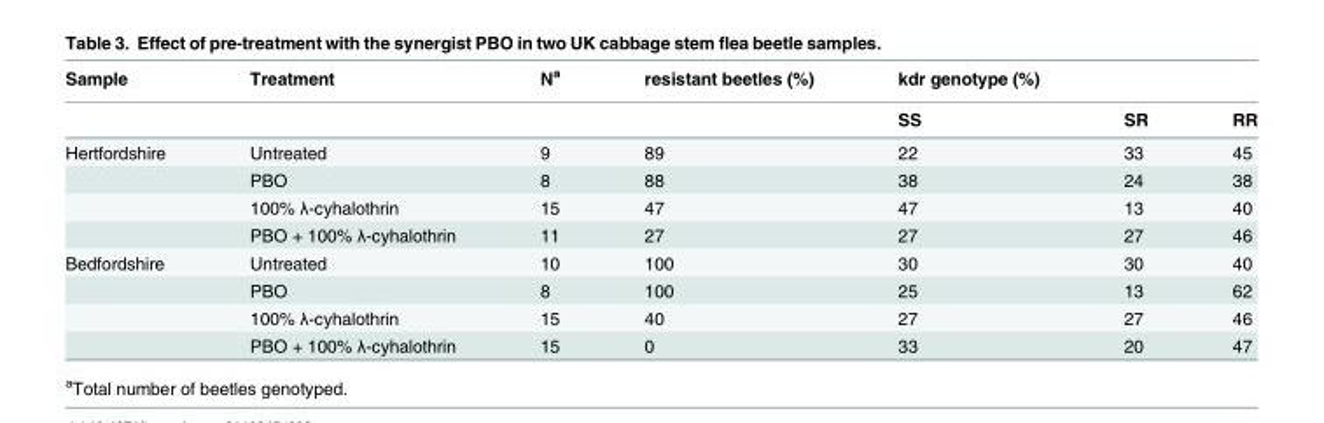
<table><thead><tr><td rowspan="2">Sample</td><td rowspan="2">Treatment</td><td rowspan="2">N<sup>a</sup></td><td rowspan="2">resistant beetles (%)</td><td rowspan="2">kdr genotype (%) SS</td><td rowspan="2">SR</td><td rowspan="2">RR</td></tr><tr></tr></thead><tbody><tr><td rowspan="4">Hertfordshire</td><td>Untreated</td><td>9</td><td>89</td><td>22</td><td>33</td><td>45</td></tr><tr><td>PBO</td><td>8</td><td>88</td><td>38</td><td>24</td><td>38</td></tr><tr><td>100% λ-cyhalothrin</td><td>15</td><td>47</td><td>47</td><td>13</td><td>40</td></tr><tr><td>PBO + 100% λ-cyhalothrin</td><td>11</td><td>27</td><td>27</td><td>27</td><td>46</td></tr><tr><td rowspan="4">Bedfordshire</td><td>Untreated</td><td>10</td><td>100</td><td>30</td><td>30</td><td>40</td></tr><tr><td>PBO</td><td>8</td><td>100</td><td>25</td><td>13</td><td>62</td></tr><tr><td>100% λ-cyhalothrin</td><td>15</td><td>40</td><td>27</td><td>27</td><td>46</td></tr><tr><td>PBO + 100% λ-cyhalothrin</td><td>15</td><td>0</td><td>33</td><td>20</td><td>47</td></tr></tbody></table>